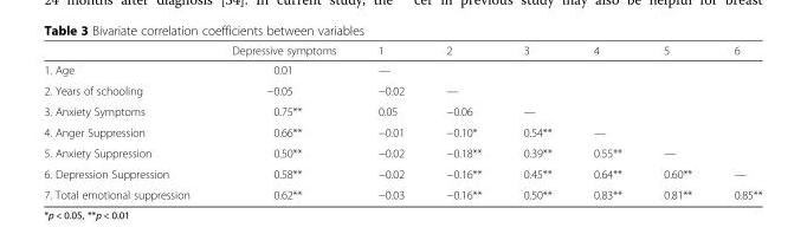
<table><thead><tr><td></td><td>Depressive symptoms</td><td>1</td><td>2</td><td>3</td><td>4</td><td>5</td><td>6</td></tr></thead><tbody><tr><td>1. Age</td><td>0.01</td><td>—</td><td></td><td></td><td></td><td></td><td></td></tr><tr><td>2. Years of schooling</td><td>−0.05</td><td>−0.02</td><td>—</td><td></td><td></td><td></td><td></td></tr><tr><td>3. Anxiety Symptoms</td><td>0.75**</td><td>0.05</td><td>−0.06</td><td>—</td><td></td><td></td><td></td></tr><tr><td>4. Anger Suppression</td><td>0.66**</td><td>−0.01</td><td>−0.10*</td><td>0.54**</td><td>—</td><td></td><td></td></tr><tr><td>5. Anxiety Suppression</td><td>0.50**</td><td>−0.02</td><td>−0.18**</td><td>0.39**</td><td>0.55**</td><td>—</td><td></td></tr><tr><td>6. Depression Suppression</td><td>0.58**</td><td>−0.02</td><td>−0.16**</td><td>0.45**</td><td>0.64**</td><td>0.60**</td><td>—</td></tr><tr><td>7. Total emotional suppression</td><td>0.62**</td><td>−0.03</td><td>−0.16**</td><td>0.50**</td><td>0.83**</td><td>0.81**</td><td>0.85**</td></tr></tbody></table>